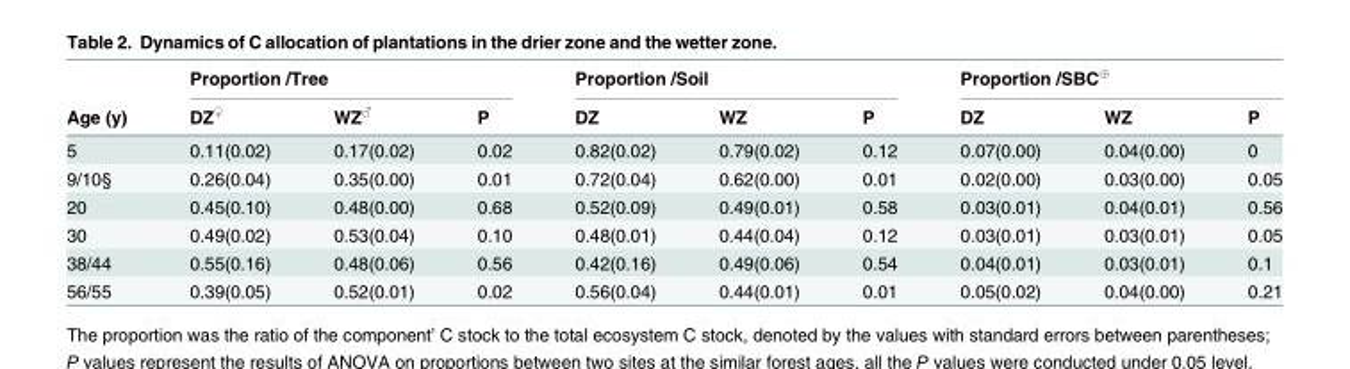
<table><thead><tr><td rowspan="2">Age (y)</td><td colspan="3">Proportion /Tree</td><td colspan="3">Proportion /Soil</td><td colspan="3">Proportion /SBC<sup>⊕</sup></td></tr><tr><td>DZ<sup>♀</sup></td><td>WZ<sup>♂</sup></td><td>P</td><td>DZ</td><td>WZ</td><td>P</td><td>DZ</td><td>WZ</td><td>P</td></tr></thead><tbody><tr><td>5</td><td>0.11(0.02)</td><td>0.17(0.02)</td><td>0.02</td><td>0.82(0.02)</td><td>0.79(0.02)</td><td>0.12</td><td>0.07(0.00)</td><td>0.04(0.00)</td><td>0</td></tr><tr><td>9/10§</td><td>0.26(0.04)</td><td>0.35(0.00)</td><td>0.01</td><td>0.72(0.04)</td><td>0.62(0.00)</td><td>0.01</td><td>0.02(0.00)</td><td>0.03(0.00)</td><td>0.05</td></tr><tr><td>20</td><td>0.45(0.10)</td><td>0.48(0.00)</td><td>0.68</td><td>0.52(0.09)</td><td>0.49(0.01)</td><td>0.58</td><td>0.03(0.01)</td><td>0.04(0.01)</td><td>0.56</td></tr><tr><td>30</td><td>0.49(0.02)</td><td>0.53(0.04)</td><td>0.10</td><td>0.48(0.01)</td><td>0.44(0.04)</td><td>0.12</td><td>0.03(0.01)</td><td>0.03(0.01)</td><td>0.05</td></tr><tr><td>38/44</td><td>0.55(0.16)</td><td>0.48(0.06)</td><td>0.56</td><td>0.42(0.16)</td><td>0.49(0.06)</td><td>0.54</td><td>0.04(0.01)</td><td>0.03(0.01)</td><td>0.1</td></tr><tr><td>56/55</td><td>0.39(0.05)</td><td>0.52(0.01)</td><td>0.02</td><td>0.56(0.04)</td><td>0.44(0.01)</td><td>0.01</td><td>0.05(0.02)</td><td>0.04(0.00)</td><td>0.21</td></tr></tbody></table>